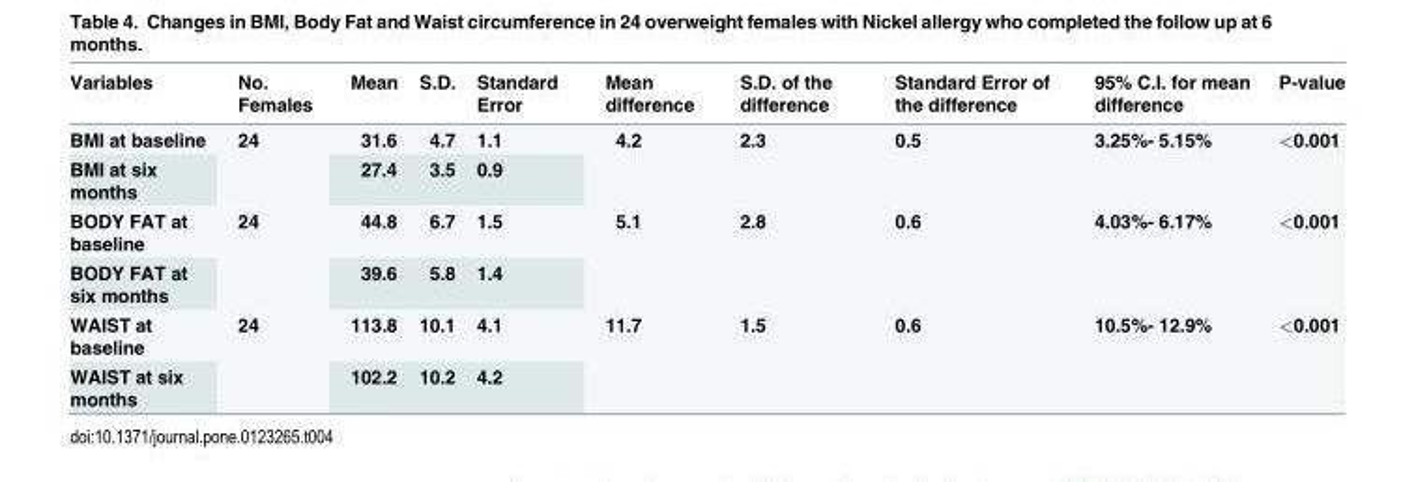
<table><thead><tr><td>Variables</td><td>No. Females</td><td>Mean</td><td>S.D.</td><td>Standard Error</td><td>Mean difference</td><td>S.D. of the difference</td><td>Standard Error of the difference</td><td>95% C.I. for mean difference</td><td>P-value</td></tr></thead><tbody><tr><td>BMI at baseline</td><td rowspan="2">24</td><td>31.6</td><td>4.7</td><td>1.1</td><td rowspan="2">4.2</td><td rowspan="2">2.3</td><td rowspan="2">0.5</td><td rowspan="2">3.25%- 5.15%</td><td rowspan="2">&lt;0.001</td></tr><tr><td>BMI at six months</td><td>27.4</td><td>3.5</td><td>0.9</td></tr><tr><td>BODY FAT at baseline</td><td rowspan="2">24</td><td>44.8</td><td>6.7</td><td>1.5</td><td rowspan="2">5.1</td><td rowspan="2">2.8</td><td rowspan="2">0.6</td><td rowspan="2">4.03%- 6.17%</td><td rowspan="2">&lt;0.001</td></tr><tr><td>BODY FAT at six months</td><td>39.6</td><td>5.8</td><td>1.4</td></tr><tr><td>WAIST at baseline</td><td rowspan="2">24</td><td>113.8</td><td>10.1</td><td>4.1</td><td rowspan="2">11.7</td><td rowspan="2">1.5</td><td rowspan="2">0.6</td><td rowspan="2">10.5%- 12.9%</td><td rowspan="2">&lt;0.001</td></tr><tr><td>WAIST at six months</td><td>102.2</td><td>10.2</td><td>4.2</td></tr></tbody></table>